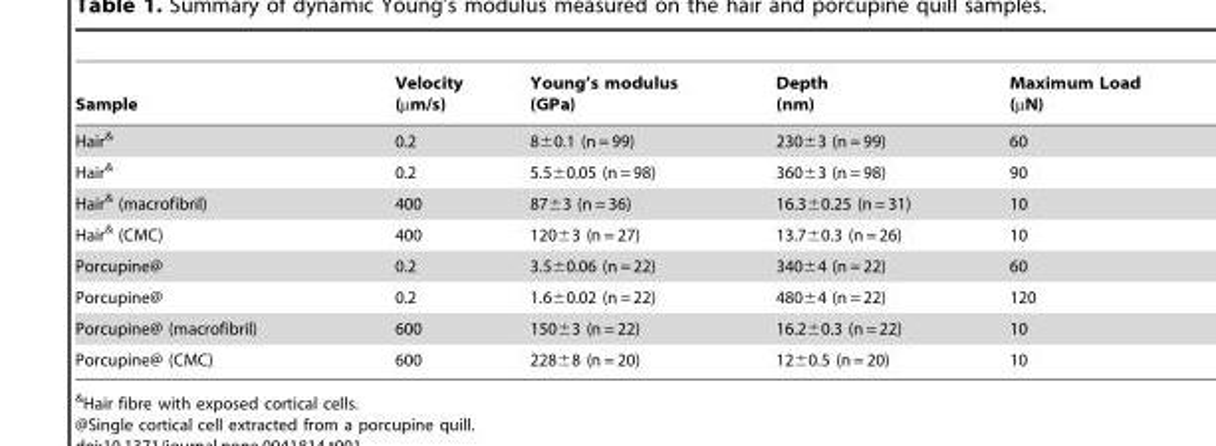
<table><thead><tr><td>Sample</td><td>Velocity (µm/s)</td><td>Young’s modulus (GPa)</td><td>Depth (nm)</td><td>Maximum Load (µN)</td></tr></thead><tbody><tr><td>Hair&amp;</td><td>0.2</td><td>8±0.1 (n = 99)</td><td>230±3 (n = 99)</td><td>60</td></tr><tr><td>Hair&amp;</td><td>0.2</td><td>5.5±0.05 (n = 98)</td><td>360±3 (n = 98)</td><td>90</td></tr><tr><td>Hair&amp; (macrofibril)</td><td>400</td><td>87±3 (n = 36)</td><td>16.3±0.25 (n = 31)</td><td>10</td></tr><tr><td>Hair&amp; (CMC)</td><td>400</td><td>120±3 (n = 27)</td><td>13.7±0.3 (n = 26)</td><td>10</td></tr><tr><td>Porcupine@</td><td>0.2</td><td>3.5±0.06 (n = 22)</td><td>340±4 (n = 22)</td><td>60</td></tr><tr><td>Porcupine@</td><td>0.2</td><td>1.6±0.02 (n = 22)</td><td>480±4 (n = 22)</td><td>120</td></tr><tr><td>Porcupine@ (macrofibril)</td><td>600</td><td>150±3 (n = 22)</td><td>16.2±0.3 (n = 22)</td><td>10</td></tr><tr><td>Porcupine@ (CMC)</td><td>600</td><td>228±8 (n = 20)</td><td>12±0.5 (n = 20)</td><td>10</td></tr></tbody></table>